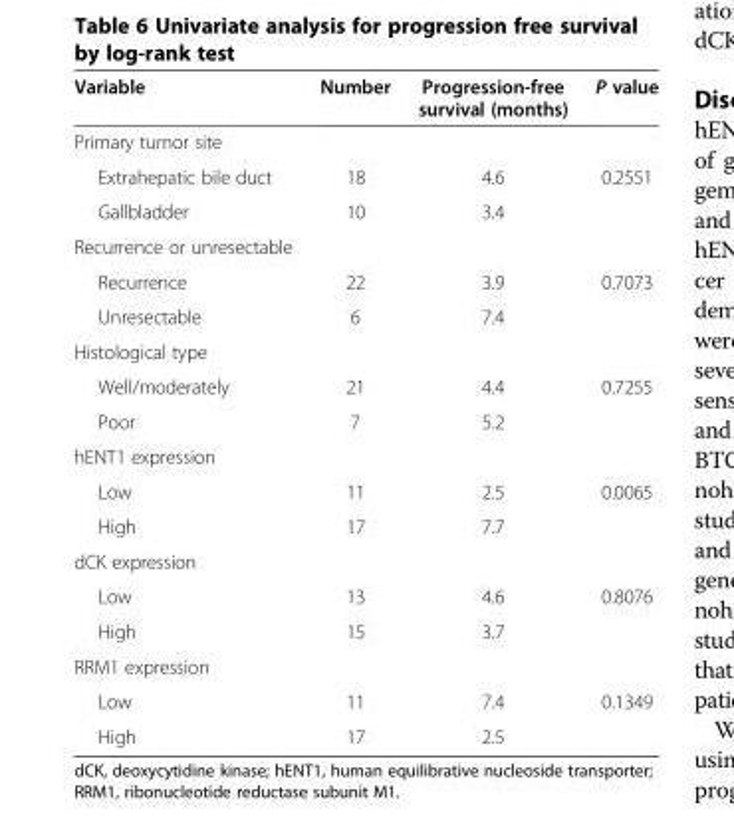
<table><thead><tr><td>Variable</td><td>Number</td><td>Progression-free survival (months)</td><td>P value</td></tr></thead><tbody><tr><td colspan="4">Primary tumor site</td></tr><tr><td>Extrahepatic bile duct</td><td>18</td><td>4.6</td><td>0.2551</td></tr><tr><td>Gallbladder</td><td>10</td><td>3.4</td><td></td></tr><tr><td colspan="4">Recurrence or unresectable</td></tr><tr><td>Recurrence</td><td>22</td><td>3.9</td><td>0.7073</td></tr><tr><td>Unresectable</td><td>6</td><td>7.4</td><td></td></tr><tr><td colspan="4">Histological type</td></tr><tr><td>Well/moderately</td><td>21</td><td>4.4</td><td>0.7255</td></tr><tr><td>Poor</td><td>7</td><td>5.2</td><td></td></tr><tr><td colspan="4">hENT1 expression</td></tr><tr><td>Low</td><td>11</td><td>2.5</td><td>0.0065</td></tr><tr><td>High</td><td>17</td><td>7.7</td><td></td></tr><tr><td colspan="4">dCK expression</td></tr><tr><td>Low</td><td>13</td><td>4.6</td><td>0.8076</td></tr><tr><td>High</td><td>15</td><td>3.7</td><td></td></tr><tr><td colspan="4">RRM1 expression</td></tr><tr><td>Low</td><td>11</td><td>7.4</td><td>0.1349</td></tr><tr><td>High</td><td>17</td><td>2.5</td><td></td></tr></tbody></table>